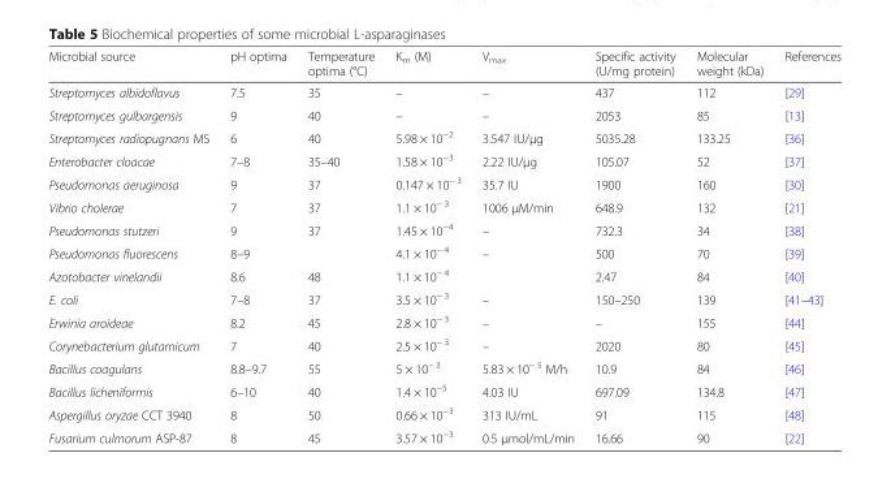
<table><thead><tr><td>Microbial source</td><td>pH optima</td><td>Temperature optima (°C)</td><td>K<sub>m</sub> (M)</td><td>V<sub>max</sub></td><td>Specific activity (U/mg protein)</td><td>Molecular weight (kDa)</td><td>References</td></tr></thead><tbody><tr><td>Streptomyces albidoflavus</td><td>7.5</td><td>35</td><td>–</td><td>–</td><td>437</td><td>112</td><td>[29]</td></tr><tr><td>Streptomyces gulbargensis</td><td>9</td><td>40</td><td>–</td><td>–</td><td>2053</td><td>85</td><td>[13]</td></tr><tr><td>Streptomyces radiopugnans MS</td><td>6</td><td>40</td><td>5.98 × 10<sup>−2</sup></td><td>3.547 IU/μg</td><td>5035.28</td><td>133.25</td><td>[36]</td></tr><tr><td>Enterobacter cloacae</td><td>7–8</td><td>35–40</td><td>1.58 × 10<sup>−3</sup></td><td>2.22 IU/μg</td><td>105.07</td><td>52</td><td>[37]</td></tr><tr><td>Pseudomonas aeruginosa</td><td>9</td><td>37</td><td>0.147 × 10<sup>− 3</sup></td><td>35.7 IU</td><td>1900</td><td>160</td><td>[30]</td></tr><tr><td>Vibrio cholerae</td><td>7</td><td>37</td><td>1.1 × 10<sup>− 3</sup></td><td>1006 μM/min</td><td>648.9</td><td>132</td><td>[21]</td></tr><tr><td>Pseudomonas stutzeri</td><td>9</td><td>37</td><td>1.45 × 10<sup>−4</sup></td><td>–</td><td>732.3</td><td>34</td><td>[38]</td></tr><tr><td>Pseudomonas fluorescens</td><td>8–9</td><td></td><td>4.1 × 10<sup>− 4</sup></td><td>–</td><td>500</td><td>70</td><td>[39]</td></tr><tr><td>Azotobacter vinelandii</td><td>8.6</td><td>48</td><td>1.1 × 10<sup>− 4</sup></td><td></td><td>2.47</td><td>84</td><td>[40]</td></tr><tr><td>E. coli</td><td>7–8</td><td>37</td><td>3.5 × 10<sup>− 3</sup></td><td>–</td><td>150–250</td><td>139</td><td>[41–43]</td></tr><tr><td>Erwinia aroideae</td><td>8.2</td><td>45</td><td>2.8 × 10<sup>− 3</sup></td><td>–</td><td>–</td><td>155</td><td>[44]</td></tr><tr><td>Corynebacterium glutamicum</td><td>7</td><td>40</td><td>2.5 × 10<sup>− 3</sup></td><td>–</td><td>2020</td><td>80</td><td>[45]</td></tr><tr><td>Bacillus coagulans</td><td>8.8–9.7</td><td>55</td><td>5 × 10<sup>− 3</sup></td><td>5.83 × 10<sup>− 5</sup> M/h</td><td>10.9</td><td>84</td><td>[46]</td></tr><tr><td>Bacillus licheniformis</td><td>6–10</td><td>40</td><td>1.4 × 10<sup>−5</sup></td><td>4.03 IU</td><td>697.09</td><td>134.8</td><td>[47]</td></tr><tr><td>Aspergillus oryzae CCT 3940</td><td>8</td><td>50</td><td>0.66 × 10<sup>−3</sup></td><td>313 IU/mL</td><td>91</td><td>115</td><td>[48]</td></tr><tr><td>Fusarium culmorum ASP-87</td><td>8</td><td>45</td><td>3.57 × 10<sup>−3</sup></td><td>0.5 μmol/mL/min</td><td>16.66</td><td>90</td><td>[22]</td></tr></tbody></table>